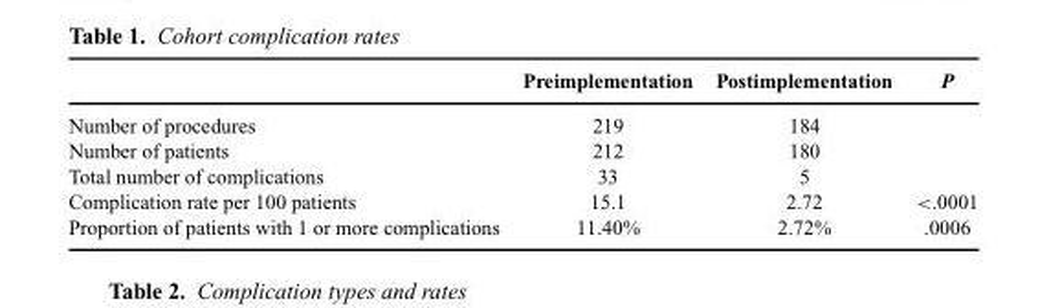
<table><thead><tr><td></td><td>Preimplementation</td><td>Postimplementation</td><td>P</td></tr></thead><tbody><tr><td>Number of procedures</td><td>219</td><td>184</td><td></td></tr><tr><td>Number of patients</td><td>212</td><td>180</td><td></td></tr><tr><td>Total number of complications</td><td>33</td><td>5</td><td></td></tr><tr><td>Complication rate per 100 patients</td><td>15.1</td><td>2.72</td><td>&lt;.0001</td></tr><tr><td>Proportion of patients with 1 or more complications</td><td>11.40%</td><td>2.72%</td><td>.0006</td></tr></tbody></table>